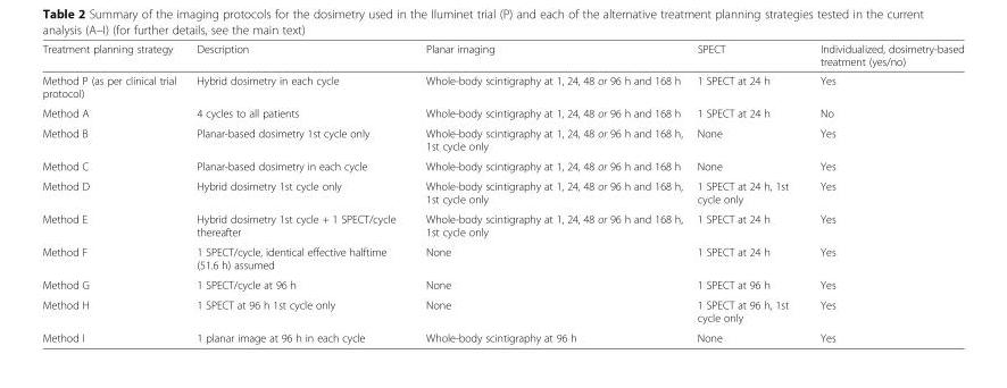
<table><thead><tr><td>Treatment planning strategy</td><td>Description</td><td>Planar imaging</td><td>SPECT</td><td>Individualized, dosimetry-based treatment (yes/no)</td></tr></thead><tbody><tr><td>Method P (as per clinical trial protocol)</td><td>Hybrid dosimetry in each cycle</td><td>Whole-body scintigraphy at 1, 24, 48 or 96 h and 168 h</td><td>1 SPECT at 24 h</td><td>Yes</td></tr><tr><td>Method A</td><td>4 cycles to all patients</td><td>Whole-body scintigraphy at 1, 24, 48 or 96 h and 168 h</td><td>1 SPECT at 24 h</td><td>No</td></tr><tr><td>Method B</td><td>Planar-based dosimetry 1st cycle only</td><td>Whole-body scintigraphy at 1, 24, 48 or 96 h and 168 h, 1st cycle only</td><td>None</td><td>Yes</td></tr><tr><td>Method C</td><td>Planar-based dosimetry in each cycle</td><td>Whole-body scintigraphy at 1, 24, 48 or 96 h and 168 h</td><td>None</td><td>Yes</td></tr><tr><td>Method D</td><td>Hybrid dosimetry 1st cycle only</td><td>Whole-body scintigraphy at 1, 24, 48 or 96 h and 168 h, 1st cycle only</td><td>1 SPECT at 24 h, 1st cycle only</td><td>Yes</td></tr><tr><td>Method E</td><td>Hybrid dosimetry 1st cycle + 1 SPECT/cycle thereafter</td><td>Whole-body scintigraphy at 1, 24, 48 or 96 h and 168 h, 1st cycle only</td><td>1 SPECT at 24 h</td><td>Yes</td></tr><tr><td>Method F</td><td>1 SPECT/cycle, identical effective halftime (51.6 h) assumed</td><td>None</td><td>1 SPECT at 24 h</td><td>Yes</td></tr><tr><td>Method G</td><td>1 SPECT/cycle at 96 h</td><td>None</td><td>1 SPECT at 96 h</td><td>Yes</td></tr><tr><td>Method H</td><td>1 SPECT at 96 h 1st cycle only</td><td>None</td><td>1 SPECT at 96 h, 1st cycle only</td><td>Yes</td></tr><tr><td>Method I</td><td>1 planar image at 96 h in each cycle</td><td>Whole-body scintigraphy at 96 h</td><td>None</td><td>Yes</td></tr></tbody></table>